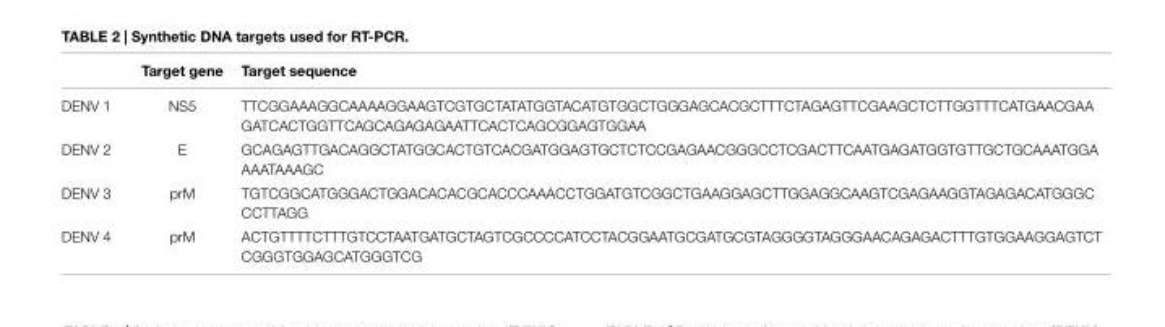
<table><thead><tr><td></td><td>Target gene</td><td>Target sequence</td></tr></thead><tbody><tr><td>DENV 1</td><td>NS5</td><td>TTCGGAAAGGCAAAAGGAAGTCGTGCTATATGGTACATGTGGCTGGGAGCACGCTTTCTAGAGTTCGAAGCTCTTGGTTTCATGAACGAA GATCACTGGTTCAGCAGAGAGAATTCACTCAGCGGAGTGGAA</td></tr><tr><td>DENV 2</td><td>E</td><td>GCAGAGTTGACAGGCTATGGCACTGTCACGATGGAGTGCTCTCCGAGAACGGGCCTCGACTTCAATGAGATGGTGTTGCTGCAAATGGA AAATAAAGC</td></tr><tr><td>DENV 3</td><td>prM</td><td>TGTCGGCATGGGACTGGACACACGCACCCAAACCTGGATGTCGGCTGAAGGAGCTTGGAGGCAAGTCGAGAAGGTAGAGACATGGGC CCTTAGG</td></tr><tr><td>DENV 4</td><td>prM</td><td>ACTGTTTTCTTTGTCCTAATGATGCTAGTCGCCCCATCCTACGGAATGCGATGCGTAGGGGTAGGGAACAGAGACTTTGTGGAAGGAGTCT CGGGTGGAGCATGGGTCG</td></tr></tbody></table>